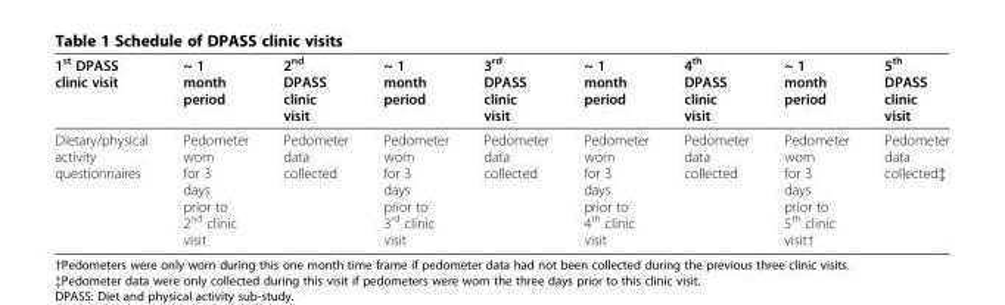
<table><thead><tr><td>1<sup>st</sup> DPASS clinic visit</td><td>~ 1 month period</td><td>2<sup>nd</sup> DPASS clinic visit</td><td>~ 1 month period</td><td>3<sup>rd</sup> DPASS clinic visit</td><td>~ 1 month period</td><td>4<sup>th</sup> DPASS clinic visit</td><td>~ 1 month period</td><td>5<sup>th</sup> DPASS clinic visit</td></tr></thead><tbody><tr><td>Dietary/physical activity questionnaires</td><td>Pedometer worn for 3 days prior to 2<sup>nd</sup> clinic visit</td><td>Pedometer data collected</td><td>Pedometer worn for 3 days prior to 3<sup>rd</sup> clinic visit</td><td>Pedometer data collected</td><td>Pedometer worn for 3 days prior to 4<sup>th</sup> clinic visit</td><td>Pedometer data collected</td><td>Pedometer worn for 3 days prior to 5<sup>th</sup> clinic visit†</td><td>Pedometer data collected‡</td></tr></tbody></table>